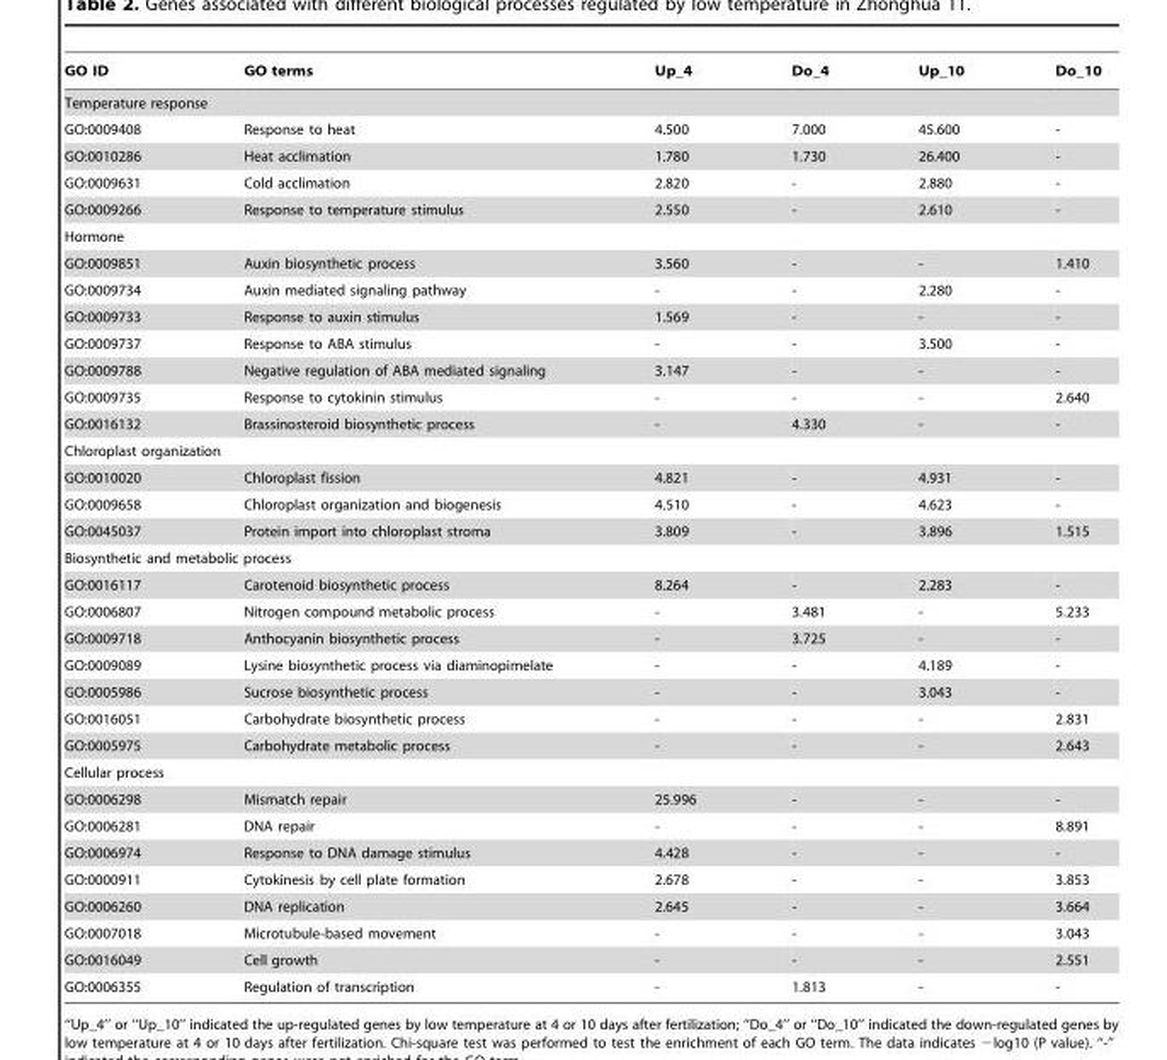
<table><thead><tr><td>GO ID</td><td>GO terms</td><td>Up_4</td><td>Do_4</td><td>Up_10</td><td>Do_10</td></tr></thead><tbody><tr><td colspan="6">Temperature response</td></tr><tr><td>GO:0009408</td><td>Response to heat</td><td>4.500</td><td>7.000</td><td>45.600</td><td>-</td></tr><tr><td>GO:0010286</td><td>Heat acclimation</td><td>1.780</td><td>1.730</td><td>26.400</td><td>-</td></tr><tr><td>GO:0009631</td><td>Cold acclimation</td><td>2.820</td><td>-</td><td>2.880</td><td>-</td></tr><tr><td>GO:0009266</td><td>Response to temperature stimulus</td><td>2.550</td><td>-</td><td>2.610</td><td>-</td></tr><tr><td colspan="6">Hormone</td></tr><tr><td>GO:0009851</td><td>Auxin biosynthetic process</td><td>3.560</td><td>-</td><td>-</td><td>1.410</td></tr><tr><td>GO:0009734</td><td>Auxin mediated signaling pathway</td><td>-</td><td>-</td><td>2.280</td><td>-</td></tr><tr><td>GO:0009733</td><td>Response to auxin stimulus</td><td>1.569</td><td>-</td><td>-</td><td>-</td></tr><tr><td>GO:0009737</td><td>Response to ABA stimulus</td><td>-</td><td>-</td><td>3.500</td><td>-</td></tr><tr><td>GO:0009788</td><td>Negative regulation of ABA mediated signaling</td><td>3.147</td><td>-</td><td>-</td><td>-</td></tr><tr><td>GO:0009735</td><td>Response to cytokinin stimulus</td><td>-</td><td>-</td><td>-</td><td>2.640</td></tr><tr><td>GO:0016132</td><td>Brassinosteroid biosynthetic process</td><td>-</td><td>4.330</td><td>-</td><td>-</td></tr><tr><td colspan="6">Chloroplast organization</td></tr><tr><td>GO:0010020</td><td>Chloroplast fission</td><td>4.821</td><td>-</td><td>4.931</td><td>-</td></tr><tr><td>GO:0009658</td><td>Chloroplast organization and biogenesis</td><td>4.510</td><td>-</td><td>4.623</td><td>-</td></tr><tr><td>GO:0045037</td><td>Protein import into chloroplast stroma</td><td>3.809</td><td>-</td><td>3.896</td><td>1.515</td></tr><tr><td colspan="6">Biosynthetic and metabolic process</td></tr><tr><td>GO:0016117</td><td>Carotenoid biosynthetic process</td><td>8.264</td><td>-</td><td>2.283</td><td>-</td></tr><tr><td>GO:0006807</td><td>Nitrogen compound metabolic process</td><td>-</td><td>3.481</td><td>-</td><td>5.233</td></tr><tr><td>GO:0009718</td><td>Anthocyanin biosynthetic process</td><td>-</td><td>3.725</td><td>-</td><td>-</td></tr><tr><td>GO:0009089</td><td>Lysine biosynthetic process via diaminopimelate</td><td>-</td><td>-</td><td>4.189</td><td>-</td></tr><tr><td>GO:0005986</td><td>Sucrose biosynthetic process</td><td>-</td><td>-</td><td>3.043</td><td>-</td></tr><tr><td>GO:0016051</td><td>Carbohydrate biosynthetic process</td><td>-</td><td>-</td><td>-</td><td>2.831</td></tr><tr><td>GO:0005975</td><td>Carbohydrate metabolic process</td><td>-</td><td>-</td><td>-</td><td>2.643</td></tr><tr><td colspan="6">Cellular process</td></tr><tr><td>GO:0006298</td><td>Mismatch repair</td><td>25.996</td><td>-</td><td>-</td><td>-</td></tr><tr><td>GO:0006281</td><td>DNA repair</td><td>-</td><td>-</td><td>-</td><td>8.891</td></tr><tr><td>GO:0006974</td><td>Response to DNA damage stimulus</td><td>4.428</td><td>-</td><td>-</td><td>-</td></tr><tr><td>GO:0000911</td><td>Cytokinesis by cell plate formation</td><td>2.678</td><td>-</td><td>-</td><td>3.853</td></tr><tr><td>GO:0006260</td><td>DNA replication</td><td>2.645</td><td>-</td><td>-</td><td>3.664</td></tr><tr><td>GO:0007018</td><td>Microtubule-based movement</td><td>-</td><td>-</td><td>-</td><td>3.043</td></tr><tr><td>GO:0016049</td><td>Cell growth</td><td>-</td><td>-</td><td>-</td><td>2.551</td></tr><tr><td>GO:0006355</td><td>Regulation of transcription</td><td>-</td><td>1.813</td><td>-</td><td>-</td></tr></tbody></table>